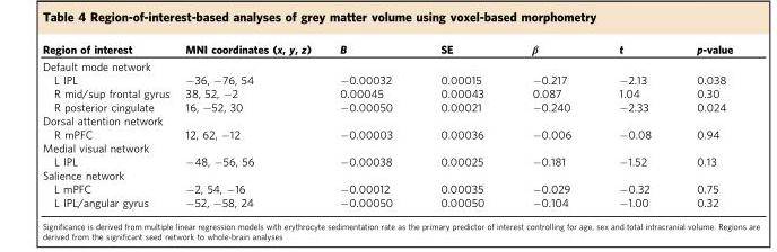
<table><thead><tr><td>Region of interest</td><td>MNI coordinates (x, y, z)</td><td>B</td><td>SE</td><td>β</td><td>t</td><td>p-value</td></tr></thead><tbody><tr><td colspan="7">Default mode network</td></tr><tr><td>L IPL</td><td>−36, −76, 54</td><td>−0.00032</td><td>0.00015</td><td>−0.217</td><td>−2.13</td><td>0.038</td></tr><tr><td>R mid/sup frontal gyrus</td><td>38, 52, −2</td><td>0.00045</td><td>0.00043</td><td>0.087</td><td>1.04</td><td>0.30</td></tr><tr><td>R posterior cingulate</td><td>16, −52, 30</td><td>−0.00050</td><td>0.00021</td><td>−0.240</td><td>−2.33</td><td>0.024</td></tr><tr><td colspan="7">Dorsal attention network</td></tr><tr><td>R mPFC</td><td>12, 62, −12</td><td>−0.00003</td><td>0.00036</td><td>−0.006</td><td>−0.08</td><td>0.94</td></tr><tr><td colspan="7">Medial visual network</td></tr><tr><td>L IPL</td><td>−48, −56, 56</td><td>−0.00038</td><td>0.00025</td><td>−0.181</td><td>−1.52</td><td>0.13</td></tr><tr><td colspan="7">Salience network</td></tr><tr><td>L mPFC</td><td>−2, 54, −16</td><td>−0.00012</td><td>0.00035</td><td>−0.029</td><td>−0.32</td><td>0.75</td></tr><tr><td>L IPL/angular gyrus</td><td>−52, −58, 24</td><td>−0.00050</td><td>0.00050</td><td>−0.104</td><td>−1.00</td><td>0.32</td></tr></tbody></table>